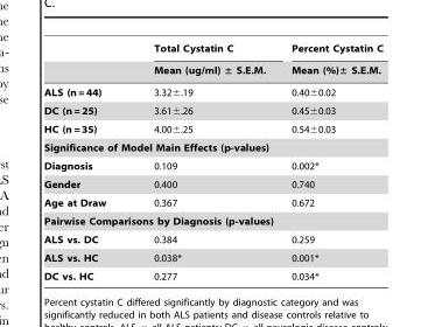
<table><thead><tr><td rowspan="2"></td><td rowspan="2">Total Cystatin C Mean (ug/ml) ± S.E.M.</td><td rowspan="2">Percent Cystatin C Mean (%)± S.E.M.</td></tr><tr></tr></thead><tbody><tr><td>ALS (n = 44)</td><td>3.32±.19</td><td>0.40±0.02</td></tr><tr><td>DC (n = 25)</td><td>3.61±.26</td><td>0.45±0.03</td></tr><tr><td>HC (n = 35)</td><td>4.00±.25</td><td>0.54±0.03</td></tr><tr><td colspan="3">Significance of Model Main Effects (p-values)</td></tr><tr><td>Diagnosis</td><td>0.109</td><td>0.002*</td></tr><tr><td>Gender</td><td>0.400</td><td>0.740</td></tr><tr><td>Age at Draw</td><td>0.367</td><td>0.672</td></tr><tr><td colspan="3">Pairwise Comparisons by Diagnosis (p-values)</td></tr><tr><td>ALS vs. DC</td><td>0.384</td><td>0.259</td></tr><tr><td>ALS vs. HC</td><td>0.038*</td><td>0.001*</td></tr><tr><td>DC vs. HC</td><td>0.277</td><td>0.034*</td></tr></tbody></table>